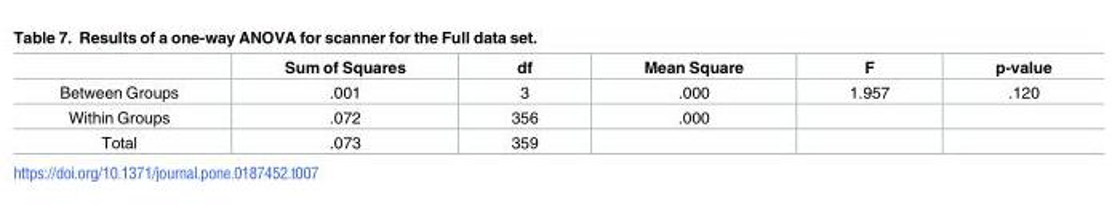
<table><thead><tr><td></td><td>Sum of Squares</td><td>df</td><td>Mean Square</td><td>F</td><td>p-value</td></tr></thead><tbody><tr><td>Between Groups</td><td>.001</td><td>3</td><td>.000</td><td>1.957</td><td>.120</td></tr><tr><td>Within Groups</td><td>.072</td><td>356</td><td>.000</td><td></td><td></td></tr><tr><td>Total</td><td>.073</td><td>359</td><td></td><td></td><td></td></tr></tbody></table>